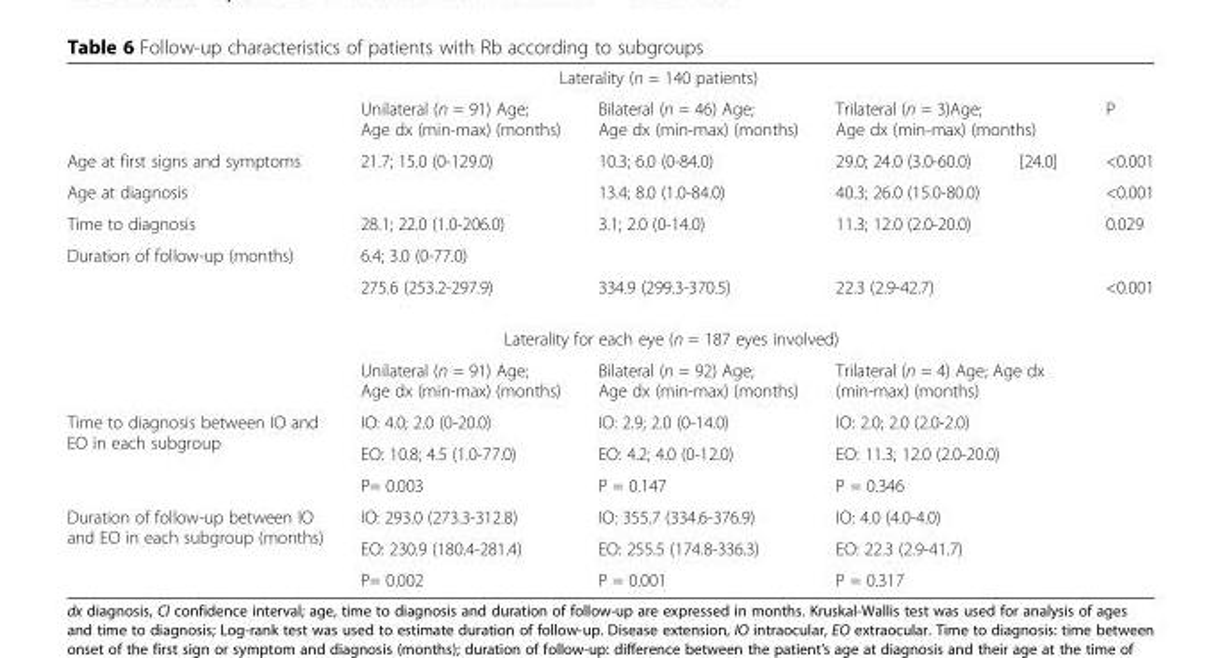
<table><tbody><tr><td colspan="6">Laterality (n = 140 patients)</td></tr><tr><td></td><td>Unilateral (n = 91) Age; Age dx (min-max) (months)</td><td>Bilateral (n = 46) Age; Age dx (min-max) (months)</td><td colspan="2">Trilateral (n = 3)Age; Age dx (min-max) (months)</td><td>P</td></tr><tr><td>Age at first signs and symptoms</td><td>21.7; 15.0 (0-129.0)</td><td>10.3; 6.0 (0-84.0)</td><td>29.0; 24.0 (3.0-60.0)</td><td>[24.0]</td><td>&lt;0.001</td></tr><tr><td>Age at diagnosis</td><td></td><td>13.4; 8.0 (1.0-84.0)</td><td colspan="2">40.3; 26.0 (15.0-80.0)</td><td>&lt;0.001</td></tr><tr><td>Time to diagnosis</td><td>28.1; 22.0 (1.0-206.0)</td><td>3.1; 2.0 (0-14.0)</td><td colspan="2">11.3; 12.0 (2.0-20.0)</td><td>0.029</td></tr><tr><td rowspan="2">Duration of follow-up (months)</td><td>6.4; 3.0 (0-77.0)</td><td></td><td colspan="2"></td><td></td></tr><tr><td>275.6 (253.2-297.9)</td><td>334.9 (299.3-370.5)</td><td colspan="2">22.3 (2.9-42.7)</td><td>&lt;0.001</td></tr><tr><td colspan="6">Laterality for each eye (n = 187 eyes involved)</td></tr><tr><td></td><td>Unilateral (n = 91) Age; Age dx (min-max) (months)</td><td>Bilateral (n = 92) Age; Age dx (min-max) (months)</td><td colspan="2">Trilateral (n = 4) Age; Age dx (min-max) (months)</td><td></td></tr><tr><td rowspan="3">Time to diagnosis between IO and EO in each subgroup</td><td>IO: 4.0; 2.0 (0-20.0)</td><td>IO: 2.9; 2.0 (0-14.0)</td><td colspan="2">IO: 2.0; 2.0 (2.0-2.0)</td><td></td></tr><tr><td>EO: 10.8; 4.5 (1.0-77.0)</td><td>EO: 4.2; 4.0 (0-12.0)</td><td colspan="2">EO: 11.3; 12.0 (2.0-20.0)</td><td></td></tr><tr><td>P= 0.003</td><td>P = 0.147</td><td colspan="2">P = 0.346</td><td></td></tr><tr><td rowspan="3">Duration of follow-up between IO and EO in each subgroup (months)</td><td>IO: 293.0 (273.3-312.8)</td><td>IO: 355.7 (334.6-376.9)</td><td colspan="2">IO: 4.0 (4.0-4.0)</td><td></td></tr><tr><td>EO: 230.9 (180.4-281.4)</td><td>EO: 255.5 (174.8-336.3)</td><td colspan="2">EO: 22.3 (2.9-41.7)</td><td></td></tr><tr><td>P= 0.002</td><td>P = 0.001</td><td colspan="2">P = 0.317</td><td></td></tr></tbody></table>